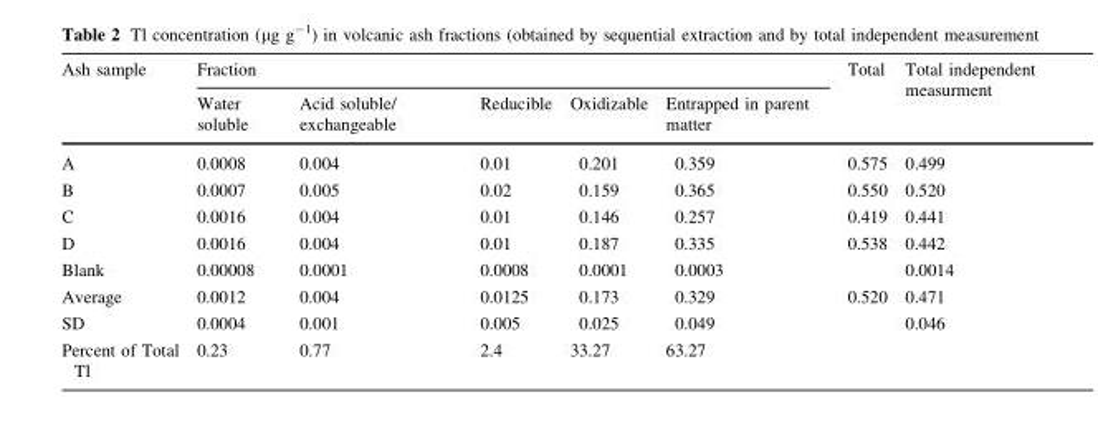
<table><thead><tr><td rowspan="2">Ash sample</td><td colspan="5">Fraction</td><td rowspan="2">Total</td><td rowspan="2">Total independent measurment</td></tr><tr><td>Water soluble</td><td>Acid soluble/ exchangeable</td><td>Reducible</td><td>Oxidizable</td><td>Entrapped in parent matter</td></tr></thead><tbody><tr><td>A</td><td>0.0008</td><td>0.004</td><td>0.01</td><td>0.201</td><td>0.359</td><td>0.575</td><td>0.499</td></tr><tr><td>B</td><td>0.0007</td><td>0.005</td><td>0.02</td><td>0.159</td><td>0.365</td><td>0.550</td><td>0.520</td></tr><tr><td>C</td><td>0.0016</td><td>0.004</td><td>0.01</td><td>0.146</td><td>0.257</td><td>0.419</td><td>0.441</td></tr><tr><td>D</td><td>0.0016</td><td>0.004</td><td>0.01</td><td>0.187</td><td>0.335</td><td>0.538</td><td>0.442</td></tr><tr><td>Blank</td><td>0.00008</td><td>0.0001</td><td>0.0008</td><td>0.0001</td><td>0.0003</td><td></td><td>0.0014</td></tr><tr><td>Average</td><td>0.0012</td><td>0.004</td><td>0.0125</td><td>0.173</td><td>0.329</td><td>0.520</td><td>0.471</td></tr><tr><td>SD</td><td>0.0004</td><td>0.001</td><td>0.005</td><td>0.025</td><td>0.049</td><td></td><td>0.046</td></tr><tr><td>Percent of Total Tl</td><td>0.23</td><td>0.77</td><td>2.4</td><td>33.27</td><td>63.27</td><td></td><td></td></tr></tbody></table>